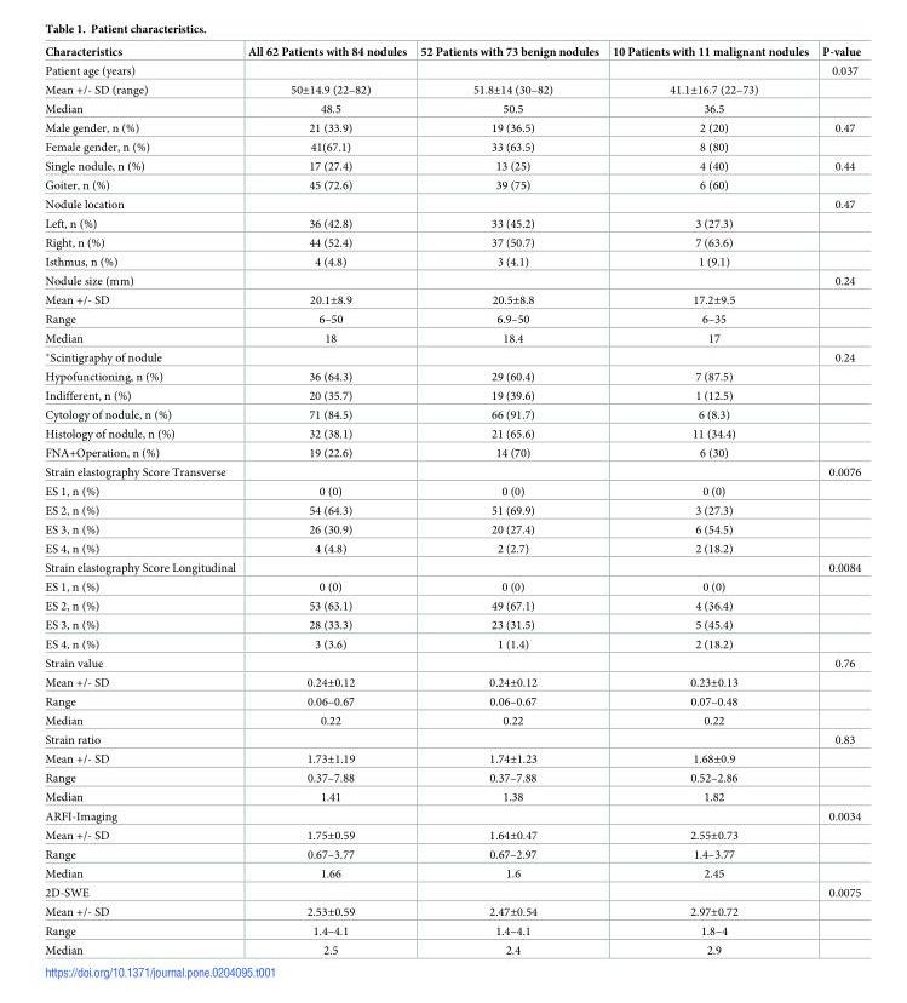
<table><thead><tr><td>Characteristics</td><td>All 62 Patients with 84 nodules</td><td>52 Patients with 73 benign nodules</td><td>10 Patients with 11 malignant nodules</td><td>P-value</td></tr></thead><tbody><tr><td>Patient age (years)</td><td></td><td></td><td></td><td>0.037</td></tr><tr><td>Mean +/- SD (range)</td><td>50±14.9 (22–82)</td><td>51.8±14 (30–82)</td><td>41.1±16.7 (22–73)</td><td></td></tr><tr><td>Median</td><td>48.5</td><td>50.5</td><td>36.5</td><td></td></tr><tr><td>Male gender, n (%)</td><td>21 (33.9)</td><td>19 (36.5)</td><td>2 (20)</td><td>0.47</td></tr><tr><td>Female gender, n (%)</td><td>41(67.1)</td><td>33 (63.5)</td><td>8 (80)</td><td></td></tr><tr><td>Single nodule, n (%)</td><td>17 (27.4)</td><td>13 (25)</td><td>4 (40)</td><td>0.44</td></tr><tr><td>Goiter, n (%)</td><td>45 (72.6)</td><td>39 (75)</td><td>6 (60)</td><td></td></tr><tr><td>Nodule location</td><td></td><td></td><td></td><td>0.47</td></tr><tr><td>Left, n (%)</td><td>36 (42.8)</td><td>33 (45.2)</td><td>3 (27.3)</td><td></td></tr><tr><td>Right, n (%)</td><td>44 (52.4)</td><td>37 (50.7)</td><td>7 (63.6)</td><td></td></tr><tr><td>Isthmus, n (%)</td><td>4 (4.8)</td><td>3 (4.1)</td><td>1 (9.1)</td><td></td></tr><tr><td>Nodule size (mm)</td><td></td><td></td><td></td><td>0.24</td></tr><tr><td>Mean +/- SD</td><td>20.1±8.9</td><td>20.5±8.8</td><td>17.2±9.5</td><td></td></tr><tr><td>Range</td><td>6–50</td><td>6.9–50</td><td>6–35</td><td></td></tr><tr><td>Median</td><td>18</td><td>18.4</td><td>17</td><td></td></tr><tr><td>*Scintigraphy of nodule</td><td></td><td></td><td></td><td>0.24</td></tr><tr><td>Hypofunctioning, n (%)</td><td>36 (64.3)</td><td>29 (60.4)</td><td>7 (87.5)</td><td></td></tr><tr><td>Indifferent, n (%)</td><td>20 (35.7)</td><td>19 (39.6)</td><td>1 (12.5)</td><td></td></tr><tr><td>Cytology of nodule, n (%)</td><td>71 (84.5)</td><td>66 (91.7)</td><td>6 (8.3)</td><td></td></tr><tr><td>Histology of nodule, n (%)</td><td>32 (38.1)</td><td>21 (65.6)</td><td>11 (34.4)</td><td></td></tr><tr><td>FNA+Operation, n (%)</td><td>19 (22.6)</td><td>14 (70)</td><td>6 (30)</td><td></td></tr><tr><td>Strain elastography Score Transverse</td><td></td><td></td><td></td><td>0.0076</td></tr><tr><td>ES 1, n (%)</td><td>0 (0)</td><td>0 (0)</td><td>0 (0)</td><td></td></tr><tr><td>ES 2, n (%)</td><td>54 (64.3)</td><td>51 (69.9)</td><td>3 (27.3)</td><td></td></tr><tr><td>ES 3, n (%)</td><td>26 (30.9)</td><td>20 (27.4)</td><td>6 (54.5)</td><td></td></tr><tr><td>ES 4, n (%)</td><td>4 (4.8)</td><td>2 (2.7)</td><td>2 (18.2)</td><td></td></tr><tr><td>Strain elastography Score Longitudinal</td><td></td><td></td><td></td><td>0.0084</td></tr><tr><td>ES 1, n (%)</td><td>0 (0)</td><td>0 (0)</td><td>0 (0)</td><td></td></tr><tr><td>ES 2, n (%)</td><td>53 (63.1)</td><td>49 (67.1)</td><td>4 (36.4)</td><td></td></tr><tr><td>ES 3, n (%)</td><td>28 (33.3)</td><td>23 (31.5)</td><td>5 (45.4)</td><td></td></tr><tr><td>ES 4, n (%)</td><td>3 (3.6)</td><td>1 (1.4)</td><td>2 (18.2)</td><td></td></tr><tr><td>Strain value</td><td></td><td></td><td></td><td>0.76</td></tr><tr><td>Mean +/- SD</td><td>0.24±0.12</td><td>0.24±0.12</td><td>0.23±0.13</td><td></td></tr><tr><td>Range</td><td>0.06–0.67</td><td>0.06–0.67</td><td>0.07–0.48</td><td></td></tr><tr><td>Median</td><td>0.22</td><td>0.22</td><td>0.22</td><td></td></tr><tr><td>Strain ratio</td><td></td><td></td><td></td><td>0.83</td></tr><tr><td>Mean +/- SD</td><td>1.73±1.19</td><td>1.74±1.23</td><td>1.68±0.9</td><td></td></tr><tr><td>Range</td><td>0.37–7.88</td><td>0.37–7.88</td><td>0.52–2.86</td><td></td></tr><tr><td>Median</td><td>1.41</td><td>1.38</td><td>1.82</td><td></td></tr><tr><td>ARFI-Imaging</td><td></td><td></td><td></td><td>0.0034</td></tr><tr><td>Mean +/- SD</td><td>1.75±0.59</td><td>1.64±0.47</td><td>2.55±0.73</td><td></td></tr><tr><td>Range</td><td>0.67–3.77</td><td>0.67–2.97</td><td>1.4–3.77</td><td></td></tr><tr><td>Median</td><td>1.66</td><td>1.6</td><td>2.45</td><td></td></tr><tr><td>2D-SWE</td><td></td><td></td><td></td><td>0.0075</td></tr><tr><td>Mean +/- SD</td><td>2.53±0.59</td><td>2.47±0.54</td><td>2.97±0.72</td><td></td></tr><tr><td>Range</td><td>1.4–4.1</td><td>1.4–4.1</td><td>1.8–4</td><td></td></tr><tr><td>Median</td><td>2.5</td><td>2.4</td><td>2.9</td><td></td></tr></tbody></table>